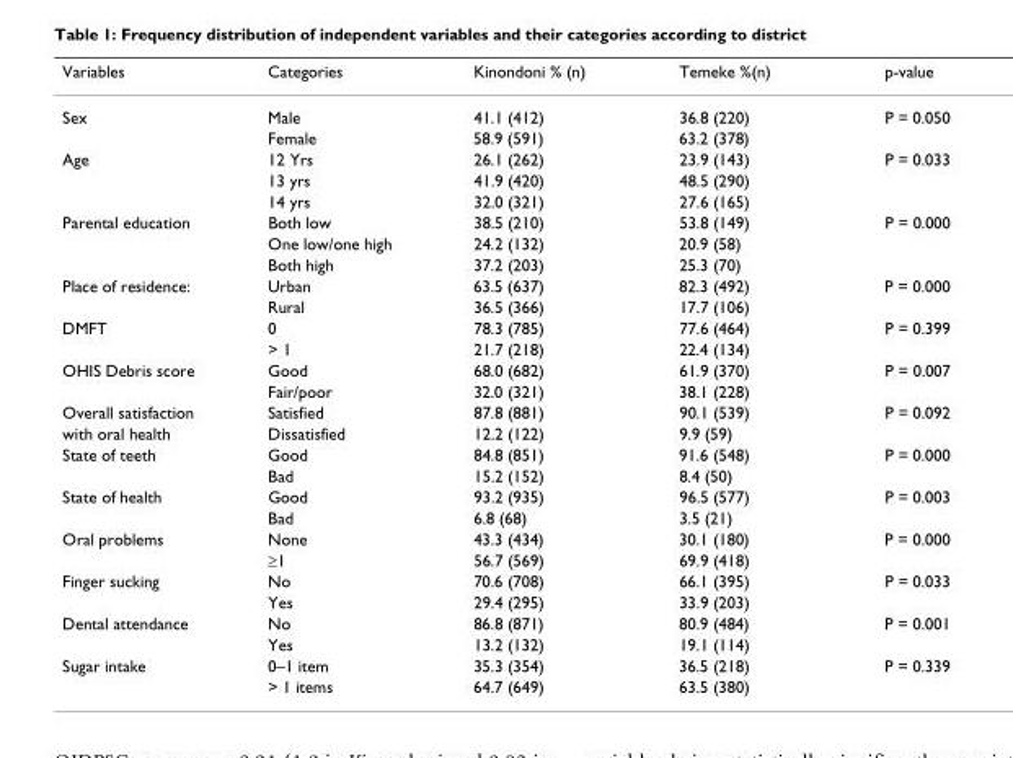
<table><thead><tr><td>Variables</td><td>Categories</td><td>Kinondoni % (n)</td><td>Temeke %(n)</td><td>p-value</td></tr></thead><tbody><tr><td rowspan="2">Sex</td><td>Male</td><td>41.1 (412)</td><td>36.8 (220)</td><td>P = 0.050</td></tr><tr><td>Female</td><td>58.9 (591)</td><td>63.2 (378)</td><td></td></tr><tr><td rowspan="3">Age</td><td>12 Yrs</td><td>26.1 (262)</td><td>23.9 (143)</td><td>P = 0.033</td></tr><tr><td>13 yrs</td><td>41.9 (420)</td><td>48.5 (290)</td><td></td></tr><tr><td>14 yrs</td><td>32.0 (321)</td><td>27.6 (165)</td><td></td></tr><tr><td rowspan="3">Parental education</td><td>Both low</td><td>38.5 (210)</td><td>53.8 (149)</td><td>P = 0.000</td></tr><tr><td>One low/one high</td><td>24.2 (132)</td><td>20.9 (58)</td><td></td></tr><tr><td>Both high</td><td>37.2 (203)</td><td>25.3 (70)</td><td></td></tr><tr><td rowspan="2">Place of residence:</td><td>Urban</td><td>63.5 (637)</td><td>82.3 (492)</td><td>P = 0.000</td></tr><tr><td>Rural</td><td>36.5 (366)</td><td>17.7 (106)</td><td></td></tr><tr><td rowspan="2">DMFT</td><td>0</td><td>78.3 (785)</td><td>77.6 (464)</td><td>P = 0.399</td></tr><tr><td>&gt; 1</td><td>21.7 (218)</td><td>22.4 (134)</td><td></td></tr><tr><td rowspan="2">OHIS Debris score</td><td>Good</td><td>68.0 (682)</td><td>61.9 (370)</td><td>P = 0.007</td></tr><tr><td>Fair/poor</td><td>32.0 (321)</td><td>38.1 (228)</td><td></td></tr><tr><td>Overall satisfaction</td><td>Satisfied</td><td>87.8 (881)</td><td>90.1 (539)</td><td>P = 0.092</td></tr><tr><td>with oral health</td><td>Dissatisfied</td><td>12.2 (122)</td><td>9.9 (59)</td><td></td></tr><tr><td rowspan="2">State of teeth</td><td>Good</td><td>84.8 (851)</td><td>91.6 (548)</td><td>P = 0.000</td></tr><tr><td>Bad</td><td>15.2 (152)</td><td>8.4 (50)</td><td></td></tr><tr><td rowspan="2">State of health</td><td>Good</td><td>93.2 (935)</td><td>96.5 (577)</td><td>P = 0.003</td></tr><tr><td>Bad</td><td>6.8 (68)</td><td>3.5 (21)</td><td></td></tr><tr><td rowspan="2">Oral problems</td><td>None</td><td>43.3 (434)</td><td>30.1 (180)</td><td>P = 0.000</td></tr><tr><td>≥1</td><td>56.7 (569)</td><td>69.9 (418)</td><td></td></tr><tr><td rowspan="2">Finger sucking</td><td>No</td><td>70.6 (708)</td><td>66.1 (395)</td><td>P = 0.033</td></tr><tr><td>Yes</td><td>29.4 (295)</td><td>33.9 (203)</td><td></td></tr><tr><td rowspan="2">Dental attendance</td><td>No</td><td>86.8 (871)</td><td>80.9 (484)</td><td>P = 0.001</td></tr><tr><td>Yes</td><td>13.2 (132)</td><td>19.1 (114)</td><td></td></tr><tr><td rowspan="2">Sugar intake</td><td>0–1 item</td><td>35.3 (354)</td><td>36.5 (218)</td><td>P = 0.339</td></tr><tr><td>&gt; 1 items</td><td>64.7 (649)</td><td>63.5 (380)</td><td></td></tr></tbody></table>